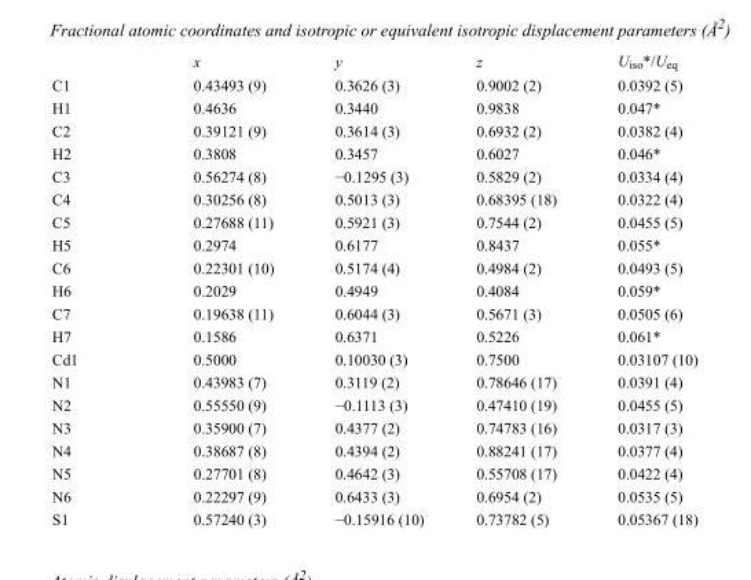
<table><thead><tr><td></td><td>x</td><td>y</td><td>z</td><td>U<sub>iso</sub>*/U<sub>eq</sub></td></tr></thead><tbody><tr><td>C1</td><td>0.43493 (9)</td><td>0.3626 (3)</td><td>0.9002 (2)</td><td>0.0392 (5)</td></tr><tr><td>H1</td><td>0.4636</td><td>0.3440</td><td>0.9838</td><td>0.047*</td></tr><tr><td>C2</td><td>0.39121 (9)</td><td>0.3614 (3)</td><td>0.6932 (2)</td><td>0.0382 (4)</td></tr><tr><td>H2</td><td>0.3808</td><td>0.3457</td><td>0.6027</td><td>0.046*</td></tr><tr><td>C3</td><td>0.56274 (8)</td><td>−0.1295 (3)</td><td>0.5829 (2)</td><td>0.0334 (4)</td></tr><tr><td>C4</td><td>0.30256 (8)</td><td>0.5013 (3)</td><td>0.68395 (18)</td><td>0.0322 (4)</td></tr><tr><td>C5</td><td>0.27688 (11)</td><td>0.5921 (3)</td><td>0.7544 (2)</td><td>0.0455 (5)</td></tr><tr><td>H5</td><td>0.2974</td><td>0.6177</td><td>0.8437</td><td>0.055*</td></tr><tr><td>C6</td><td>0.22301 (10)</td><td>0.5174 (4)</td><td>0.4984 (2)</td><td>0.0493 (5)</td></tr><tr><td>H6</td><td>0.2029</td><td>0.4949</td><td>0.4084</td><td>0.059*</td></tr><tr><td>C7</td><td>0.19638 (11)</td><td>0.6044 (3)</td><td>0.5671 (3)</td><td>0.0505 (6)</td></tr><tr><td>H7</td><td>0.1586</td><td>0.6371</td><td>0.5226</td><td>0.061*</td></tr><tr><td>Cd1</td><td>0.5000</td><td>0.10030 (3)</td><td>0.7500</td><td>0.03107 (10)</td></tr><tr><td>N1</td><td>0.43983 (7)</td><td>0.3119 (2)</td><td>0.78646 (17)</td><td>0.0391 (4)</td></tr><tr><td>N2</td><td>0.55550 (9)</td><td>−0.1113 (3)</td><td>0.47410 (19)</td><td>0.0455 (5)</td></tr><tr><td>N3</td><td>0.35900 (7)</td><td>0.4377 (2)</td><td>0.74783 (16)</td><td>0.0317 (3)</td></tr><tr><td>N4</td><td>0.38687 (8)</td><td>0.4394 (2)</td><td>0.88241 (17)</td><td>0.0377 (4)</td></tr><tr><td>N5</td><td>0.27701 (8)</td><td>0.4642 (3)</td><td>0.55708 (17)</td><td>0.0422 (4)</td></tr><tr><td>N6</td><td>0.22297 (9)</td><td>0.6433 (3)</td><td>0.6954 (2)</td><td>0.0535 (5)</td></tr><tr><td>S1</td><td>0.57240 (3)</td><td>−0.15916 (10)</td><td>0.73782 (5)</td><td>0.05367 (18)</td></tr></tbody></table>